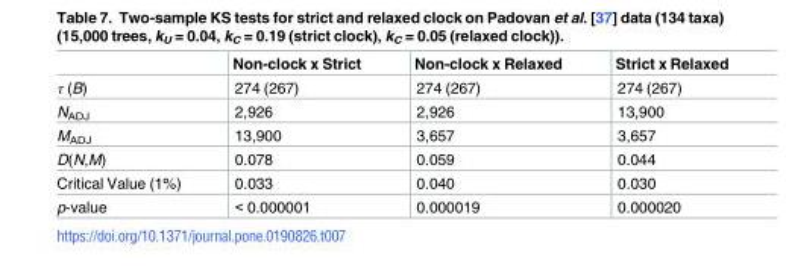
<table><thead><tr><td></td><td>Non-clock x Strict</td><td>Non-clock x Relaxed</td><td>Strict x Relaxed</td></tr></thead><tbody><tr><td>τ (B)</td><td>274 (267)</td><td>274 (267)</td><td>274 (267)</td></tr><tr><td>N<sub>ADJ</sub></td><td>2,926</td><td>2,926</td><td>13,900</td></tr><tr><td>M<sub>ADJ</sub></td><td>13,900</td><td>3,657</td><td>3,657</td></tr><tr><td>D(N,M)</td><td>0.078</td><td>0.059</td><td>0.044</td></tr><tr><td>Critical Value (1%)</td><td>0.033</td><td>0.040</td><td>0.030</td></tr><tr><td>p-value</td><td>&lt; 0.000001</td><td>0.000019</td><td>0.000020</td></tr></tbody></table>